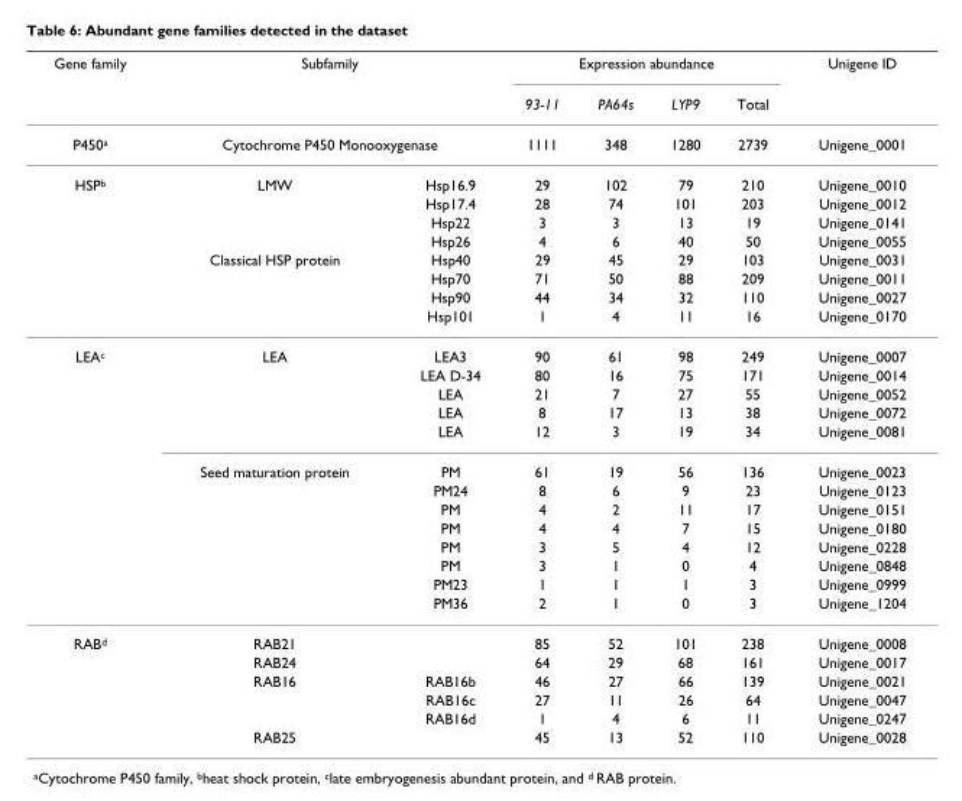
<table><thead><tr><td rowspan="2">Gene family</td><td colspan="2">Subfamily</td><td colspan="4">Expression abundance</td><td rowspan="2">Unigene ID</td></tr><tr><td></td><td></td><td>93-11</td><td>PA64s</td><td>LYP9</td><td>Total</td></tr></thead><tbody><tr><td>P450<sup>a</sup></td><td colspan="2">Cytochrome P450 Monooxygenase</td><td>1111</td><td>348</td><td>1280</td><td>2739</td><td>Unigene_0001</td></tr><tr><td rowspan="8">HSP<sup>b</sup></td><td>LMW</td><td>Hsp16.9</td><td>29</td><td>102</td><td>79</td><td>210</td><td>Unigene_0010</td></tr><tr><td></td><td>Hsp17.4</td><td>28</td><td>74</td><td>101</td><td>203</td><td>Unigene_0012</td></tr><tr><td></td><td>Hsp22</td><td>3</td><td>3</td><td>13</td><td>19</td><td>Unigene_0141</td></tr><tr><td></td><td>Hsp26</td><td>4</td><td>6</td><td>40</td><td>50</td><td>Unigene_0055</td></tr><tr><td>Classical HSP protein</td><td>Hsp40</td><td>29</td><td>45</td><td>29</td><td>103</td><td>Unigene_0031</td></tr><tr><td></td><td>Hsp70</td><td>71</td><td>50</td><td>88</td><td>209</td><td>Unigene_0011</td></tr><tr><td></td><td>Hsp90</td><td>44</td><td>34</td><td>32</td><td>110</td><td>Unigene_0027</td></tr><tr><td></td><td>Hsp101</td><td>1</td><td>4</td><td>11</td><td>16</td><td>Unigene_0170</td></tr><tr><td rowspan="13">LEA<sup>c</sup></td><td>LEA</td><td>LEA3</td><td>90</td><td>61</td><td>98</td><td>249</td><td>Unigene_0007</td></tr><tr><td></td><td>LEA D-34</td><td>80</td><td>16</td><td>75</td><td>171</td><td>Unigene_0014</td></tr><tr><td></td><td>LEA</td><td>21</td><td>7</td><td>27</td><td>55</td><td>Unigene_0052</td></tr><tr><td></td><td>LEA</td><td>8</td><td>17</td><td>13</td><td>38</td><td>Unigene_0072</td></tr><tr><td></td><td>LEA</td><td>12</td><td>3</td><td>19</td><td>34</td><td>Unigene_0081</td></tr><tr><td>Seed maturation protein</td><td>PM</td><td>61</td><td>19</td><td>56</td><td>136</td><td>Unigene_0023</td></tr><tr><td></td><td>PM24</td><td>8</td><td>6</td><td>9</td><td>23</td><td>Unigene_0123</td></tr><tr><td></td><td>PM</td><td>4</td><td>2</td><td>11</td><td>17</td><td>Unigene_0151</td></tr><tr><td></td><td>PM</td><td>4</td><td>4</td><td>7</td><td>15</td><td>Unigene_0180</td></tr><tr><td></td><td>PM</td><td>3</td><td>5</td><td>4</td><td>12</td><td>Unigene_0228</td></tr><tr><td></td><td>PM</td><td>3</td><td>1</td><td>0</td><td>4</td><td>Unigene_0848</td></tr><tr><td></td><td>PM23</td><td>1</td><td>1</td><td>1</td><td>3</td><td>Unigene_0999</td></tr><tr><td></td><td>PM36</td><td>2</td><td>1</td><td>0</td><td>3</td><td>Unigene_1204</td></tr><tr><td rowspan="6">RAB<sup>d</sup></td><td>RAB21</td><td></td><td>85</td><td>52</td><td>101</td><td>238</td><td>Unigene_0008</td></tr><tr><td>RAB24</td><td></td><td>64</td><td>29</td><td>68</td><td>161</td><td>Unigene_0017</td></tr><tr><td>RAB16</td><td>RAB16b</td><td>46</td><td>27</td><td>66</td><td>139</td><td>Unigene_0021</td></tr><tr><td></td><td>RAB16c</td><td>27</td><td>11</td><td>26</td><td>64</td><td>Unigene_0047</td></tr><tr><td></td><td>RAB16d</td><td>1</td><td>4</td><td>6</td><td>11</td><td>Unigene_0247</td></tr><tr><td>RAB25</td><td></td><td>45</td><td>13</td><td>52</td><td>110</td><td>Unigene_0028</td></tr></tbody></table>